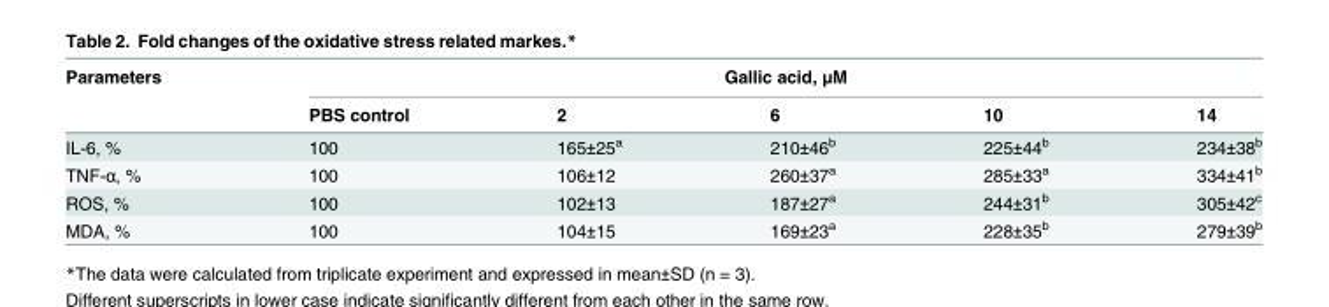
<table><thead><tr><td rowspan="2">Parameters</td><td colspan="5">Gallic acid, μM</td></tr><tr><td>PBS control</td><td>2</td><td>6</td><td>10</td><td>14</td></tr></thead><tbody><tr><td>IL-6, %</td><td>100</td><td>165±25<sup>a</sup></td><td>210±46<sup>b</sup></td><td>225±44<sup>b</sup></td><td>234±38<sup>b</sup></td></tr><tr><td>TNF-α, %</td><td>100</td><td>106±12</td><td>260±37<sup>a</sup></td><td>285±33<sup>a</sup></td><td>334±41<sup>b</sup></td></tr><tr><td>ROS, %</td><td>100</td><td>102±13</td><td>187±27<sup>a</sup></td><td>244±31<sup>b</sup></td><td>305±42<sup>c</sup></td></tr><tr><td>MDA, %</td><td>100</td><td>104±15</td><td>169±23<sup>a</sup></td><td>228±35<sup>b</sup></td><td>279±39<sup>b</sup></td></tr></tbody></table>